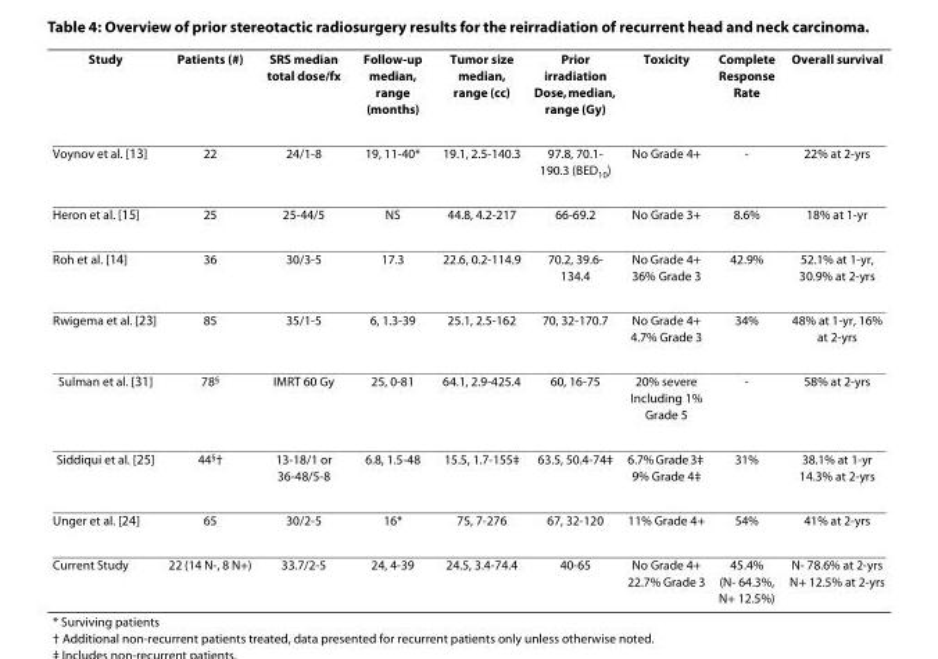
<table><thead><tr><td>Study</td><td>Patients (#)</td><td>SRS median total dose/fx</td><td>Follow-up median, range (months)</td><td>Tumor size median, range (cc)</td><td>Prior irradiation Dose, median, range (Gy)</td><td>Toxicity</td><td>Complete Response Rate</td><td>Overall survival</td></tr></thead><tbody><tr><td>Voynov et al. [13]</td><td>22</td><td>24/1-8</td><td>19, 11-40*</td><td>19.1, 2.5-140.3</td><td>97.8, 70.1- 190.3 (BED<sub>10</sub>)</td><td>No Grade 4+</td><td>-</td><td>22% at 2-yrs</td></tr><tr><td>Heron et al. [15]</td><td>25</td><td>25-44/5</td><td>NS</td><td>44.8, 4.2-217</td><td>66-69.2</td><td>No Grade 3+</td><td>8.6%</td><td>18% at 1-yr</td></tr><tr><td>Roh et al. [14]</td><td>36</td><td>30/3-5</td><td>17.3</td><td>22.6, 0.2-114.9</td><td>70.2, 39.6- 134.4</td><td>No Grade 4+ 36% Grade 3</td><td>42.9%</td><td>52.1% at 1-yr, 30.9% at 2-yrs</td></tr><tr><td>Rwigema et al. [23]</td><td>85</td><td>35/1-5</td><td>6, 1.3-39</td><td>25.1, 2.5-162</td><td>70, 32-170.7</td><td>No Grade 4+ 4.7% Grade 3</td><td>34%</td><td>48% at 1-yr, 16% at 2-yrs</td></tr><tr><td>Sulman et al. [31]</td><td>78<sup>§</sup></td><td>IMRT 60 Gy</td><td>25, 0-81</td><td>64.1, 2.9-425.4</td><td>60, 16-75</td><td>20% severe Including 1% Grade 5</td><td>-</td><td>58% at 2-yrs</td></tr><tr><td>Siddiqui et al. [25]</td><td>44<sup>§</sup>†</td><td>13-18/1 or 36-48/5-8</td><td>6.8, 1.5-48</td><td>15.5, 1.7-155‡</td><td>63.5, 50.4-74‡</td><td>6.7% Grade 3‡ 9% Grade 4‡</td><td>31%</td><td>38.1% at 1-yr 14.3% at 2-yrs</td></tr><tr><td>Unger et al. [24]</td><td>65</td><td>30/2-5</td><td>16*</td><td>75, 7-276</td><td>67, 32-120</td><td>11% Grade 4+</td><td>54%</td><td>41% at 2-yrs</td></tr><tr><td>Current Study</td><td>22 (14 N-, 8 N+)</td><td>33.7/2-5</td><td>24, 4-39</td><td>24.5, 3.4-74.4</td><td>40-65</td><td>No Grade 4+ 22.7% Grade 3</td><td>45.4% (N- 64.3%, N+ 12.5%)</td><td>N- 78.6% at 2-yrs N+ 12.5% at 2-yrs</td></tr></tbody></table>